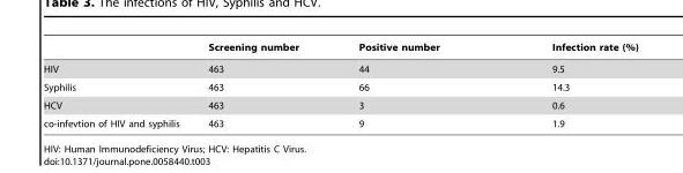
<table><thead><tr><td></td><td>Screening number</td><td>Positive number</td><td>Infection rate (%)</td></tr></thead><tbody><tr><td>HIV</td><td>463</td><td>44</td><td>9.5</td></tr><tr><td>Syphilis</td><td>463</td><td>66</td><td>14.3</td></tr><tr><td>HCV</td><td>463</td><td>3</td><td>0.6</td></tr><tr><td>co-infevtion of HIV and syphilis</td><td>463</td><td>9</td><td>1.9</td></tr></tbody></table>